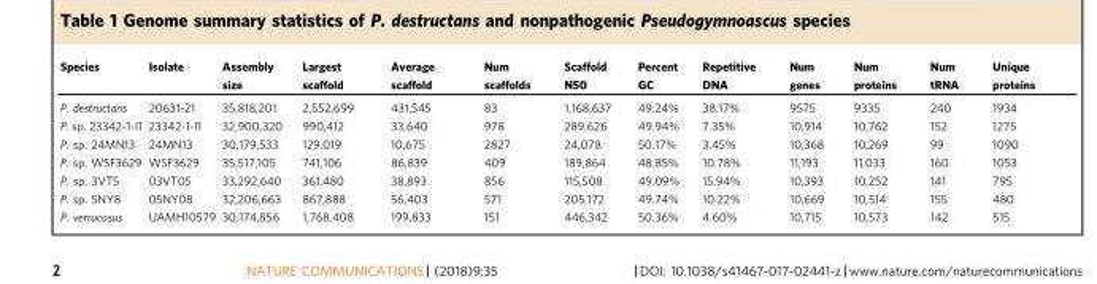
<table><thead><tr><td>Species</td><td>Isolate</td><td>Assembly size</td><td>Largest scaffold</td><td>Average scaffold</td><td>Num scaffolds</td><td>Scaffold N50</td><td>Percent GC</td><td>Repetitive DNA</td><td>Num genes</td><td>Num proteins</td><td>Num tRNA</td><td>Unique proteins</td></tr></thead><tbody><tr><td>P. destructans</td><td>20631-21</td><td>35,818,201</td><td>2,552,699</td><td>431,545</td><td>83</td><td>1,168,637</td><td>49.24%</td><td>38.17%</td><td>9575</td><td>9335</td><td>240</td><td>1934</td></tr><tr><td>P. sp. 23342-1-I1</td><td>23342-1-I1</td><td>32,900,320</td><td>990,412</td><td>33,640</td><td>978</td><td>289,626</td><td>49.94%</td><td>7.35%</td><td>10,914</td><td>10,762</td><td>152</td><td>1275</td></tr><tr><td>P. sp. 24MN13</td><td>24MN13</td><td>30,179,533</td><td>129,019</td><td>10,675</td><td>2827</td><td>24,078</td><td>50.17%</td><td>3.45%</td><td>10,368</td><td>10,269</td><td>99</td><td>1090</td></tr><tr><td>P. sp. WSF3629</td><td>WSF3629</td><td>35,517,105</td><td>741,106</td><td>86,839</td><td>409</td><td>189,864</td><td>48.85%</td><td>10.78%</td><td>11,193</td><td>11,033</td><td>160</td><td>1053</td></tr><tr><td>P. sp. 3VT5</td><td>03VT05</td><td>33,292,640</td><td>361,480</td><td>38,893</td><td>856</td><td>115,508</td><td>49.09%</td><td>15.94%</td><td>10,393</td><td>10,252</td><td>141</td><td>795</td></tr><tr><td>P. sp. 5NY8</td><td>05NY08</td><td>32,206,663</td><td>867,888</td><td>56,403</td><td>571</td><td>205,172</td><td>49.74%</td><td>10.22%</td><td>10,669</td><td>10,514</td><td>155</td><td>480</td></tr><tr><td>P. verrucosus</td><td>UAMH10579</td><td>30,174,856</td><td>1,768,408</td><td>199,833</td><td>151</td><td>446,342</td><td>50.36%</td><td>4.60%</td><td>10,715</td><td>10,573</td><td>142</td><td>515</td></tr></tbody></table>